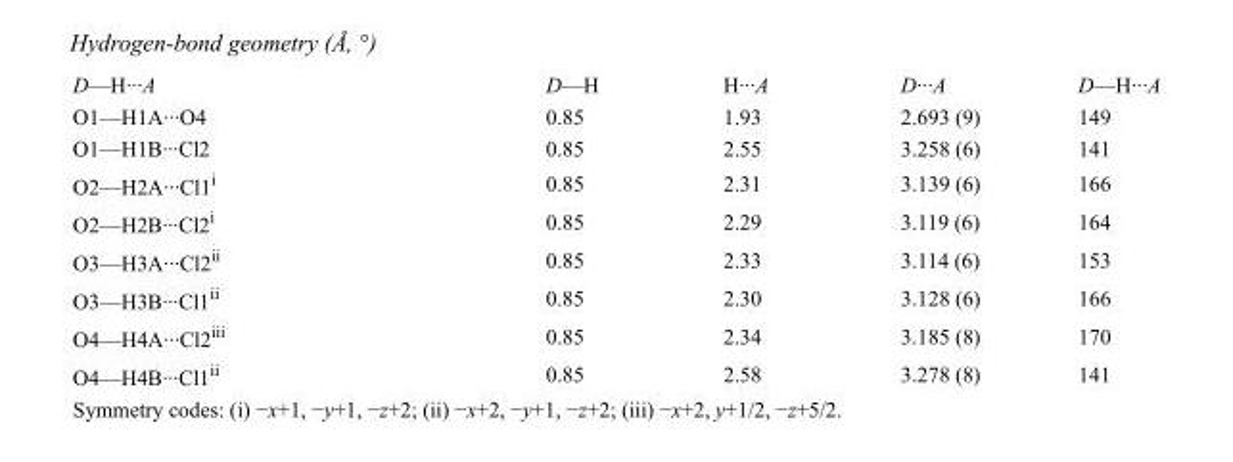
<table><tbody><tr><td>D—H···A</td><td>D—H</td><td>H···A</td><td>D···A</td><td>D—H···A</td></tr><tr><td>O1—H1A···O4</td><td>0.85</td><td>1.93</td><td>2.693 (9)</td><td>149</td></tr><tr><td>O1—H1B···Cl2</td><td>0.85</td><td>2.55</td><td>3.258 (6)</td><td>141</td></tr><tr><td>O2—H2A···Cl1<sup>i</sup></td><td>0.85</td><td>2.31</td><td>3.139 (6)</td><td>166</td></tr><tr><td>O2—H2B···Cl2<sup>i</sup></td><td>0.85</td><td>2.29</td><td>3.119 (6)</td><td>164</td></tr><tr><td>O3—H3A···Cl2<sup>ii</sup></td><td>0.85</td><td>2.33</td><td>3.114 (6)</td><td>153</td></tr><tr><td>O3—H3B···Cl1<sup>ii</sup></td><td>0.85</td><td>2.30</td><td>3.128 (6)</td><td>166</td></tr><tr><td>O4—H4A···Cl2<sup>iii</sup></td><td>0.85</td><td>2.34</td><td>3.185 (8)</td><td>170</td></tr><tr><td>O4—H4B···Cl1<sup>ii</sup></td><td>0.85</td><td>2.58</td><td>3.278 (8)</td><td>141</td></tr></tbody></table>